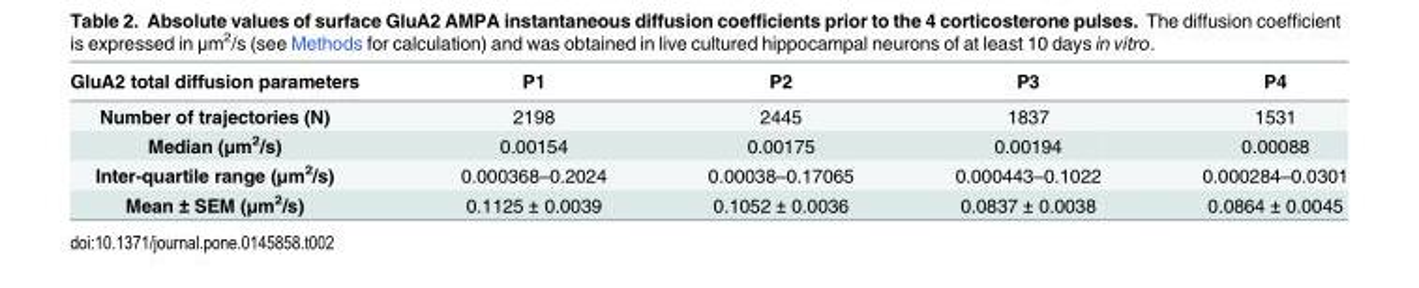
<table><thead><tr><td>GluA2 total diffusion parameters</td><td>P1</td><td>P2</td><td>P3</td><td>P4</td></tr></thead><tbody><tr><td>Number of trajectories (N)</td><td>2198</td><td>2445</td><td>1837</td><td>1531</td></tr><tr><td>Median (μm<sup>2</sup>/s)</td><td>0.00154</td><td>0.00175</td><td>0.00194</td><td>0.00088</td></tr><tr><td>Inter-quartile range (μm<sup>2</sup>/s)</td><td>0.000368–0.2024</td><td>0.00038–0.17065</td><td>0.000443–0.1022</td><td>0.000284–0.0301</td></tr><tr><td>Mean ± SEM (μm<sup>2</sup>/s)</td><td>0.1125 ± 0.0039</td><td>0.1052 ± 0.0036</td><td>0.0837 ± 0.0038</td><td>0.0864 ± 0.0045</td></tr></tbody></table>